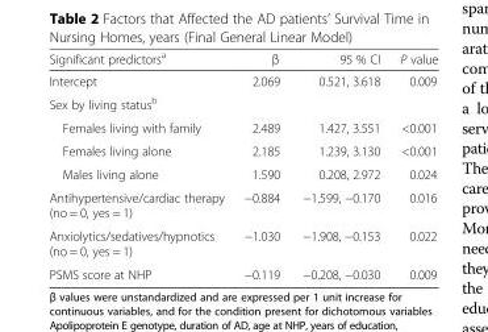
<table><thead><tr><td>Significant predictors<sup>a</sup></td><td>β</td><td>95 % CI</td><td>P value</td></tr></thead><tbody><tr><td>Intercept</td><td>2.069</td><td>0.521, 3.618</td><td>0.009</td></tr><tr><td colspan="4">Sex by living status<sup>b</sup></td></tr><tr><td>Females living with family</td><td>2.489</td><td>1.427, 3.551</td><td>&lt;0.001</td></tr><tr><td>Females living alone</td><td>2.185</td><td>1.239, 3.130</td><td>&lt;0.001</td></tr><tr><td>Males living alone</td><td>1.590</td><td>0.208, 2.972</td><td>0.024</td></tr><tr><td>Antihypertensive/cardiac therapy (no = 0, yes = 1)</td><td>−0.884</td><td>−1.599, −0.170</td><td>0.016</td></tr><tr><td>Anxiolytics/sedatives/hypnotics (no = 0, yes = 1)</td><td>−1.030</td><td>−1.908, −0.153</td><td>0.022</td></tr><tr><td>PSMS score at NHP</td><td>−0.119</td><td>−0.208, −0.030</td><td>0.009</td></tr></tbody></table>